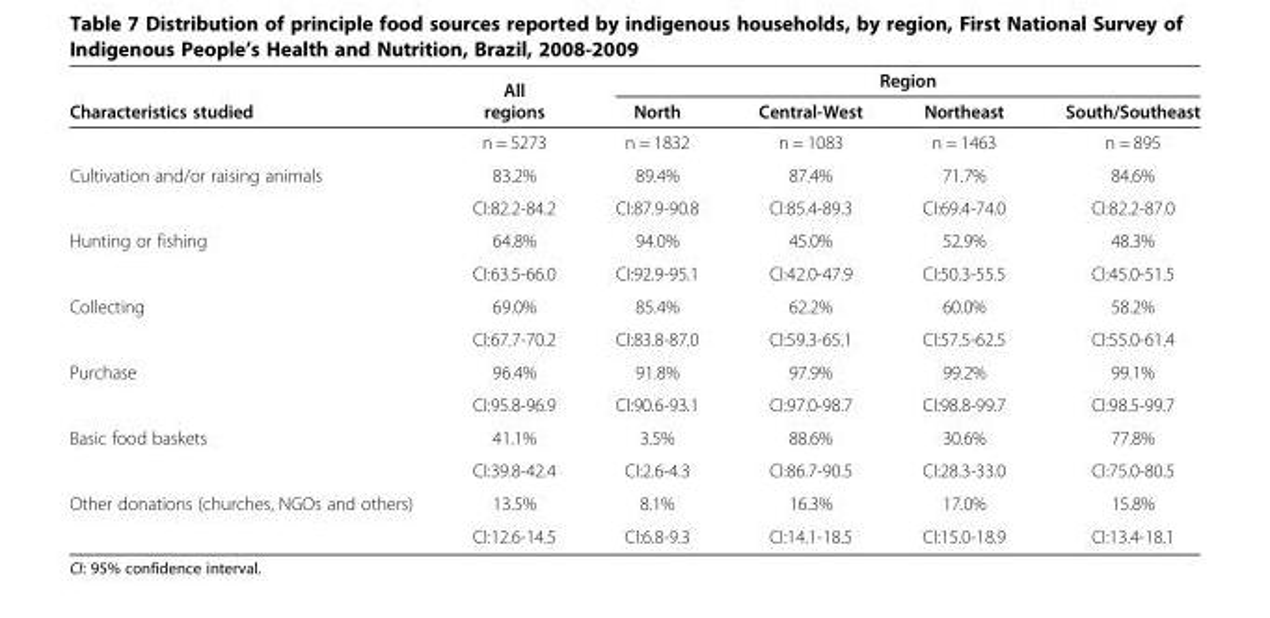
<table><thead><tr><td rowspan="2">Characteristics studied</td><td rowspan="2">All regions</td><td colspan="4">Region</td></tr><tr><td>North</td><td>Central-West</td><td>Northeast</td><td>South/Southeast</td></tr></thead><tbody><tr><td></td><td>n = 5273</td><td>n = 1832</td><td>n = 1083</td><td>n = 1463</td><td>n = 895</td></tr><tr><td rowspan="2">Cultivation and/or raising animals</td><td>83.2%</td><td>89.4%</td><td>87.4%</td><td>71.7%</td><td>84.6%</td></tr><tr><td>CI:82.2-84.2</td><td>CI:87.9-90.8</td><td>CI:85.4-89.3</td><td>CI:69.4-74.0</td><td>CI:82.2-87.0</td></tr><tr><td rowspan="2">Hunting or fishing</td><td>64.8%</td><td>94.0%</td><td>45.0%</td><td>52.9%</td><td>48.3%</td></tr><tr><td>CI:63.5-66.0</td><td>CI:92.9-95.1</td><td>CI:42.0-47.9</td><td>CI:50.3-55.5</td><td>CI:45.0-51.5</td></tr><tr><td rowspan="2">Collecting</td><td>69.0%</td><td>85.4%</td><td>62.2%</td><td>60.0%</td><td>58.2%</td></tr><tr><td>CI:67.7-70.2</td><td>CI:83.8-87.0</td><td>CI:59.3-65.1</td><td>CI:57.5-62.5</td><td>CI:55.0-61.4</td></tr><tr><td rowspan="2">Purchase</td><td>96.4%</td><td>91.8%</td><td>97.9%</td><td>99.2%</td><td>99.1%</td></tr><tr><td>CI:95.8-96.9</td><td>CI:90.6-93.1</td><td>CI:97.0-98.7</td><td>CI:98.8-99.7</td><td>CI:98.5-99.7</td></tr><tr><td rowspan="2">Basic food baskets</td><td>41.1%</td><td>3.5%</td><td>88.6%</td><td>30.6%</td><td>77.8%</td></tr><tr><td>CI:39.8-42.4</td><td>CI:2.6-4.3</td><td>CI:86.7-90.5</td><td>CI:28.3-33.0</td><td>CI:75.0-80.5</td></tr><tr><td rowspan="2">Other donations (churches, NGOs and others)</td><td>13.5%</td><td>8.1%</td><td>16.3%</td><td>17.0%</td><td>15.8%</td></tr><tr><td>CI:12.6-14.5</td><td>CI:6.8-9.3</td><td>CI:14.1-18.5</td><td>CI:15.0-18.9</td><td>CI:13.4-18.1</td></tr></tbody></table>